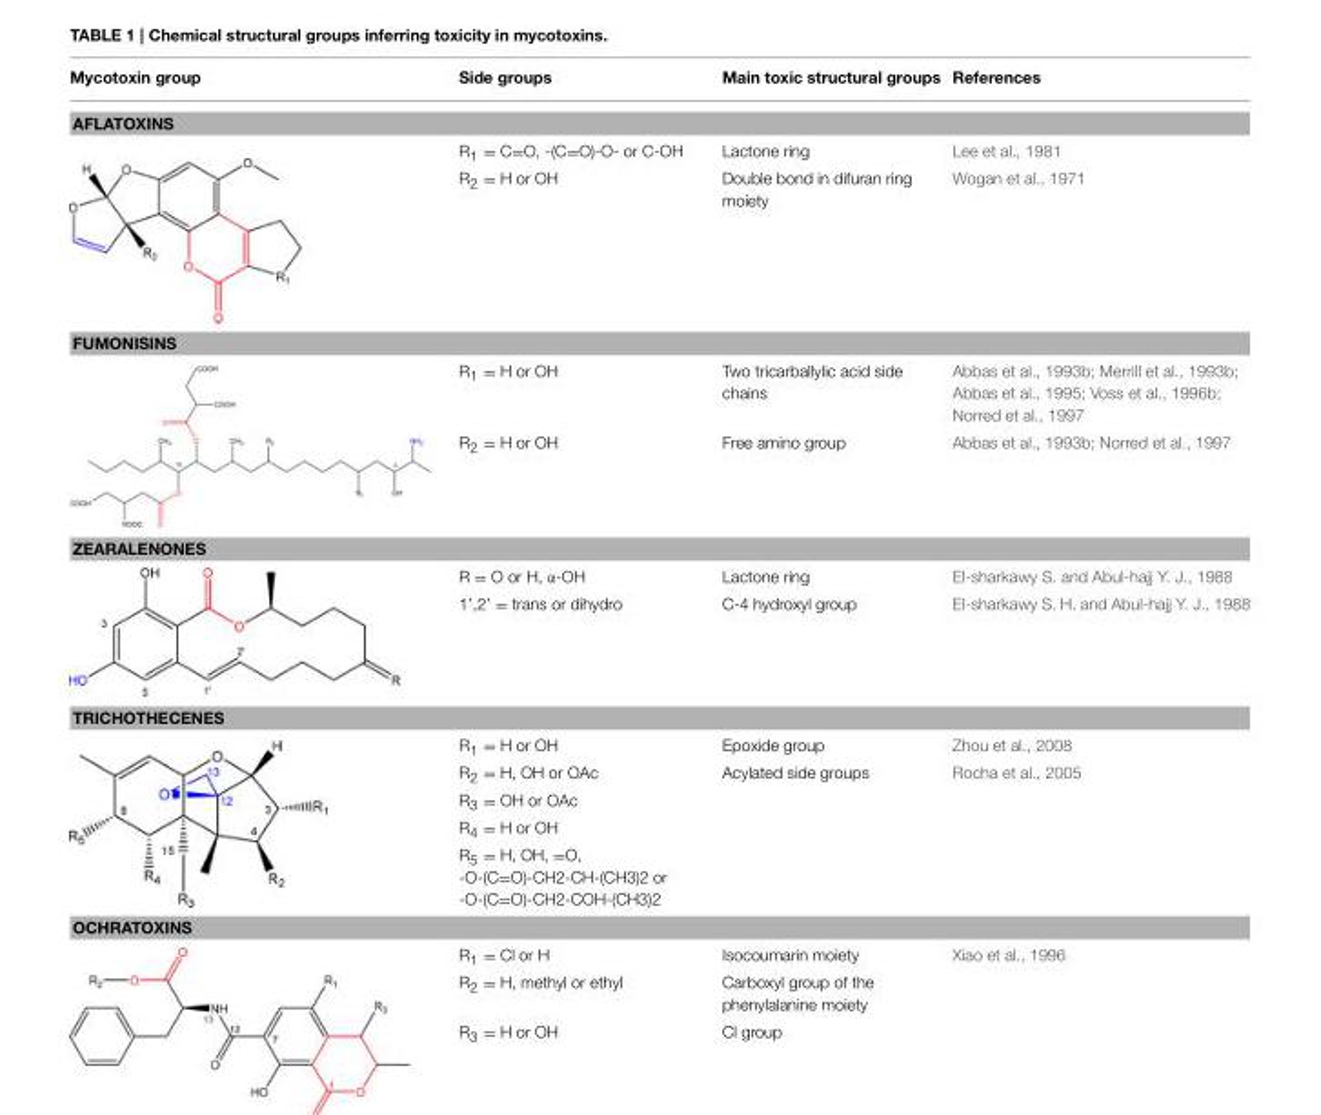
<table><thead><tr><td>Mycotoxin group</td><td>Side groups</td><td>Main toxic structural groups</td><td>References</td></tr></thead><tbody><tr><td colspan="4">AFLATOXINS</td></tr><tr><td rowspan="2"></td><td>R<sub>1</sub> = C=O, -(C=O)-O- or C-OH</td><td>Lactone ring</td><td>Lee et al., 1981</td></tr><tr><td>R<sub>2</sub> = H or OH</td><td>Double bond in difuran ring moiety</td><td>Wogan et al., 1971</td></tr><tr><td colspan="4">FUMONISINS</td></tr><tr><td rowspan="2"></td><td>R<sub>1</sub> = H or OH</td><td>Two tricarballylic acid side chains</td><td>Abbas et al., 1993b; Merrill et al., 1993b; Abbas et al., 1995; Voss et al., 1996b; Norred et al., 1997</td></tr><tr><td>R<sub>2</sub> = H or OH</td><td>Free amino group</td><td>Abbas et al., 1993b; Norred et al., 1997</td></tr><tr><td colspan="4">ZEARALENONES</td></tr><tr><td rowspan="2"></td><td>R = O or H, α-OH</td><td>Lactone ring</td><td>El-sharkawy S. and Abul-hajj Y. J., 1988</td></tr><tr><td>1’,2’ = trans or dihydro</td><td>C-4 hydroxyl group</td><td>El-sharkawy S. H. and Abul-hajj Y. J., 1988</td></tr><tr><td colspan="4">TRICHOTHECENES</td></tr><tr><td rowspan="5"></td><td>R<sub>1</sub> = H or OH</td><td>Epoxide group</td><td>Zhou et al., 2008</td></tr><tr><td>R<sub>2</sub> = H, OH or OAc</td><td>Acylated side groups</td><td>Rocha et al., 2005</td></tr><tr><td>R<sub>3</sub> = OH or OAc</td><td></td><td></td></tr><tr><td>R<sub>4</sub> = H or OH</td><td></td><td></td></tr><tr><td>R<sub>5</sub> = H, OH, =O, -O-(C=O)-CH2-CH-(CH3)2 or -O-(C=O)-CH2-COH-(CH3)2</td><td></td><td></td></tr><tr><td colspan="4">OCHRATOXINS</td></tr><tr><td rowspan="3"></td><td>R<sub>1</sub> = Cl or H</td><td>Isocoumarin moiety</td><td>Xiao et al., 1996</td></tr><tr><td>R<sub>2</sub> = H, methyl or ethyl</td><td>Carboxyl group of the phenylalanine moiety</td><td></td></tr><tr><td>R<sub>3</sub> = H or OH</td><td>Cl group</td><td></td></tr></tbody></table>